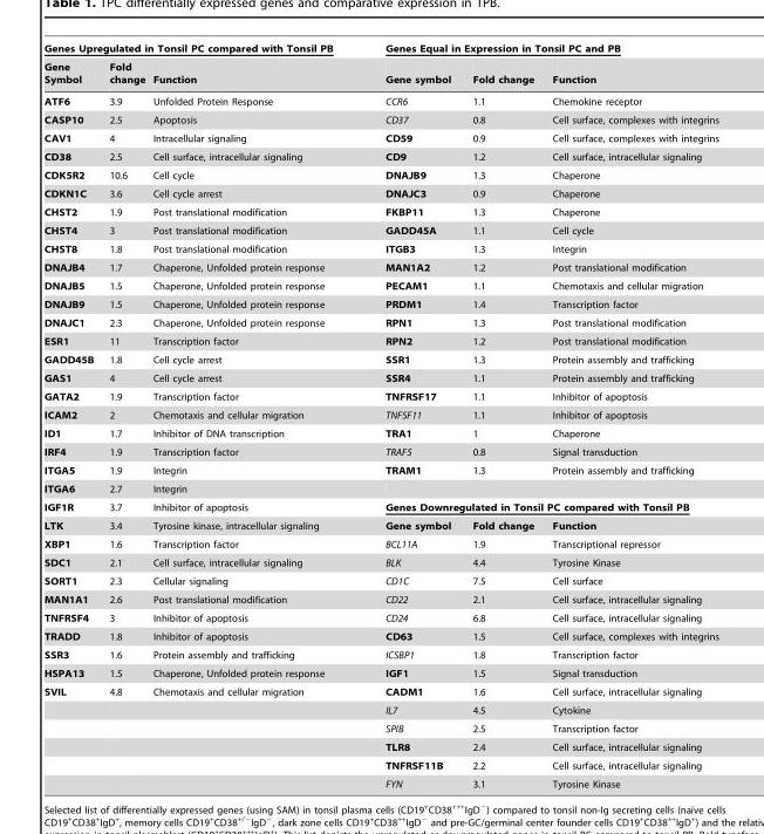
<table><thead><tr><td colspan="3">Genes Upregulated in Tonsil PC compared with Tonsil PB</td><td colspan="3">Genes Equal in Expression in Tonsil PC and PB</td></tr><tr><td>Gene Symbol</td><td>Fold change</td><td>Function</td><td>Gene symbol</td><td>Fold change</td><td>Function</td></tr></thead><tbody><tr><td>ATF6</td><td>3.9</td><td>Unfolded Protein Response</td><td>CCR6</td><td>1.1</td><td>Chemokine receptor</td></tr><tr><td>CASP10</td><td>2.5</td><td>Apoptosis</td><td>CD37</td><td>0.8</td><td>Cell surface, complexes with integrins</td></tr><tr><td>CAV1</td><td>4</td><td>Intracellular signaling</td><td>CD59</td><td>0.9</td><td>Cell surface, complexes with integrins</td></tr><tr><td>CD38</td><td>2.5</td><td>Cell surface, intracellular signaling</td><td>CD9</td><td>1.2</td><td>Cell surface, intracellular signaling</td></tr><tr><td>CDK5R2</td><td>10.6</td><td>Cell cycle</td><td>DNAJB9</td><td>1.3</td><td>Chaperone</td></tr><tr><td>CDKN1C</td><td>3.6</td><td>Cell cycle arrest</td><td>DNAJC3</td><td>0.9</td><td>Chaperone</td></tr><tr><td>CHST2</td><td>1.9</td><td>Post translational modification</td><td>FKBP11</td><td>1.3</td><td>Chaperone</td></tr><tr><td>CHST4</td><td>3</td><td>Post translational modification</td><td>GADD45A</td><td>1.1</td><td>Cell cycle</td></tr><tr><td>CHST8</td><td>1.8</td><td>Post translational modification</td><td>ITGB3</td><td>1.3</td><td>Integrin</td></tr><tr><td>DNAJB4</td><td>1.7</td><td>Chaperone, Unfolded protein response</td><td>MAN1A2</td><td>1.2</td><td>Post translational modification</td></tr><tr><td>DNAJB5</td><td>1.5</td><td>Chaperone, Unfolded protein response</td><td>PECAM1</td><td>1.1</td><td>Chemotaxis and cellular migration</td></tr><tr><td>DNAJB9</td><td>1.5</td><td>Chaperone, Unfolded protein response</td><td>PRDM1</td><td>1.4</td><td>Transcription factor</td></tr><tr><td>DNAJC1</td><td>2.3</td><td>Chaperone, Unfolded protein response</td><td>RPN1</td><td>1.3</td><td>Post translational modification</td></tr><tr><td>ESR1</td><td>11</td><td>Transcription factor</td><td>RPN2</td><td>1.2</td><td>Post translational modification</td></tr><tr><td>GADD45B</td><td>1.8</td><td>Cell cycle arrest</td><td>SSR1</td><td>1.3</td><td>Protein assembly and trafficking</td></tr><tr><td>GAS1</td><td>4</td><td>Cell cycle arrest</td><td>SSR4</td><td>1.1</td><td>Protein assembly and trafficking</td></tr><tr><td>GATA2</td><td>1.9</td><td>Transcription factor</td><td>TNFRSF17</td><td>1.1</td><td>Inhibitor of apoptosis</td></tr><tr><td>ICAM2</td><td>2</td><td>Chemotaxis and cellular migration</td><td>TNFSF11</td><td>1.1</td><td>Inhibitor of apoptosis</td></tr><tr><td>ID1</td><td>1.7</td><td>Inhibitor of DNA transcription</td><td>TRA1</td><td>1</td><td>Chaperone</td></tr><tr><td>IRF4</td><td>1.9</td><td>Transcription factor</td><td>TRAF5</td><td>0.8</td><td>Signal transduction</td></tr><tr><td>ITGA5</td><td>1.9</td><td>Integrin</td><td>TRAM1</td><td>1.3</td><td>Protein assembly and trafficking</td></tr><tr><td>ITGA6</td><td>2.7</td><td>Integrin</td><td colspan="3"></td></tr><tr><td>IGF1R</td><td>3.7</td><td>Inhibitor of apoptosis</td><td colspan="3">Genes Downregulated in Tonsil PC compared with Tonsil PB</td></tr><tr><td>LTK</td><td>3.4</td><td>Tyrosine kinase, intracellular signaling</td><td>Gene symbol</td><td>Fold change</td><td>Function</td></tr><tr><td>XBP1</td><td>1.6</td><td>Transcription factor</td><td>BCL11A</td><td>1.9</td><td>Transcriptional repressor</td></tr><tr><td>SDC1</td><td>2.1</td><td>Cell surface, intracellular signaling</td><td>BLK</td><td>4.4</td><td>Tyrosine Kinase</td></tr><tr><td>SORT1</td><td>2.3</td><td>Cellular signaling</td><td>CD1C</td><td>7.5</td><td>Cell surface</td></tr><tr><td>MAN1A1</td><td>2.6</td><td>Post translational modification</td><td>CD22</td><td>2.1</td><td>Cell surface, intracellular signaling</td></tr><tr><td>TNFRSF4</td><td>3</td><td>Inhibitor of apoptosis</td><td>CD24</td><td>6.8</td><td>Cell surface, intracellular signaling</td></tr><tr><td>TRADD</td><td>1.8</td><td>Inhibitor of apoptosis</td><td>CD63</td><td>1.5</td><td>Cell surface, complexes with integrins</td></tr><tr><td>SSR3</td><td>1.6</td><td>Protein assembly and trafficking</td><td>ICSBP1</td><td>1.8</td><td>Transcription factor</td></tr><tr><td>HSPA13</td><td>1.5</td><td>Chaperone, Unfolded protein response</td><td>IGF1</td><td>1.5</td><td>Signal transduction</td></tr><tr><td rowspan="6">SVIL</td><td>4.8</td><td>Chemotaxis and cellular migration</td><td>CADM1</td><td>1.6</td><td>Cell surface, intracellular signaling</td></tr><tr><td></td><td></td><td>IL7</td><td>4.5</td><td>Cytokine</td></tr><tr><td></td><td></td><td>SPIB</td><td>2.5</td><td>Transcription factor</td></tr><tr><td></td><td></td><td>TLR8</td><td>2.4</td><td>Cell surface, intracellular signaling</td></tr><tr><td></td><td></td><td>TNFRSF11B</td><td>2.2</td><td>Cell surface, intracellular signaling</td></tr><tr><td></td><td></td><td>FYN</td><td>3.1</td><td>Tyrosine Kinase</td></tr></tbody></table>